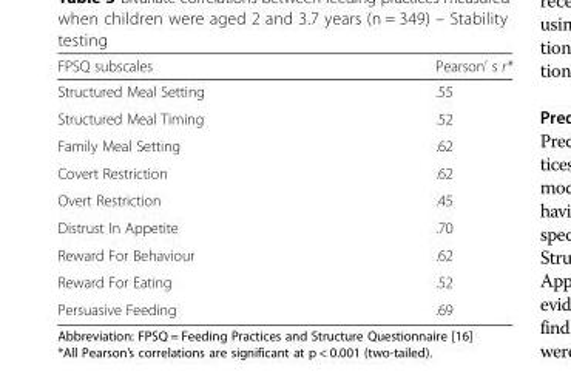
<table><thead><tr><td>FPSQ subscales</td><td>Pearson’ s r*</td></tr></thead><tbody><tr><td>Structured Meal Setting</td><td>.55</td></tr><tr><td>Structured Meal Timing</td><td>.52</td></tr><tr><td>Family Meal Setting</td><td>.62</td></tr><tr><td>Covert Restriction</td><td>.62</td></tr><tr><td>Overt Restriction</td><td>.45</td></tr><tr><td>Distrust In Appetite</td><td>.70</td></tr><tr><td>Reward For Behaviour</td><td>.62</td></tr><tr><td>Reward For Eating</td><td>.52</td></tr><tr><td>Persuasive Feeding</td><td>.69</td></tr></tbody></table>